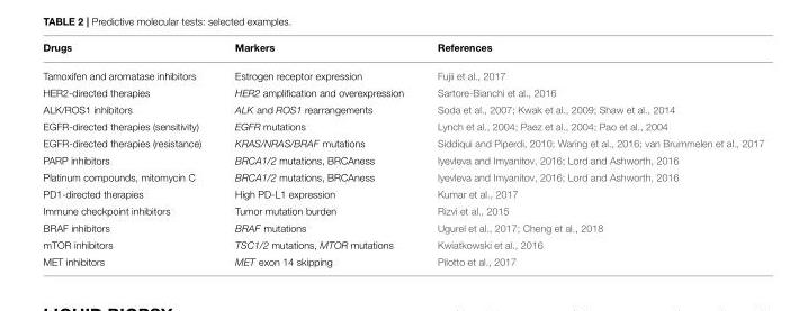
<table><thead><tr><td>Drugs</td><td>Markers</td><td>References</td></tr></thead><tbody><tr><td>Tamoxifen and aromatase inhibitors</td><td>Estrogen receptor expression</td><td>Fujii et al., 2017</td></tr><tr><td>HER2-directed therapies</td><td>HER2 amplification and overexpression</td><td>Sartore-Bianchi et al., 2016</td></tr><tr><td>ALK/ROS1 inhibitors</td><td>ALK and ROS1 rearrangements</td><td>Soda et al., 2007; Kwak et al., 2009; Shaw et al., 2014</td></tr><tr><td>EGFR-directed therapies (sensitivity)</td><td>EGFR mutations</td><td>Lynch et al., 2004; Paez et al., 2004; Pao et al., 2004</td></tr><tr><td>EGFR-directed therapies (resistance)</td><td>KRAS/NRAS/BRAF mutations</td><td>Siddiqui and Piperdi, 2010; Waring et al., 2016; van Brummelen et al., 2017</td></tr><tr><td>PARP inhibitors</td><td>BRCA1/2 mutations, BRCAness</td><td>Iyevleva and Imyanitov, 2016; Lord and Ashworth, 2016</td></tr><tr><td>Platinum compounds, mitomycin C</td><td>BRCA1/2 mutations, BRCAness</td><td>Iyevleva and Imyanitov, 2016; Lord and Ashworth, 2016</td></tr><tr><td>PD1-directed therapies</td><td>High PD-L1 expression</td><td>Kumar et al., 2017</td></tr><tr><td>Immune checkpoint inhibitors</td><td>Tumor mutation burden</td><td>Rizvi et al., 2015</td></tr><tr><td>BRAF inhibitors</td><td>BRAF mutations</td><td>Ugurel et al., 2017; Cheng et al., 2018</td></tr><tr><td>mTOR inhibitors</td><td>TSC1/2 mutations, MTOR mutations</td><td>Kwiatkowski et al., 2016</td></tr><tr><td>MET inhibitors</td><td>MET exon 14 skipping</td><td>Pilotto et al., 2017</td></tr></tbody></table>